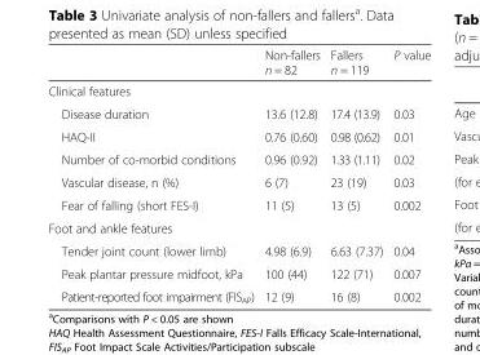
<table><thead><tr><td></td><td>Non-fallers n = 82</td><td>Fallers n = 119</td><td>P value</td></tr></thead><tbody><tr><td colspan="4">Clinical features</td></tr><tr><td>Disease duration</td><td>13.6 (12.8)</td><td>17.4 (13.9)</td><td>0.03</td></tr><tr><td>HAQ-II</td><td>0.76 (0.60)</td><td>0.98 (0.62)</td><td>0.01</td></tr><tr><td>Number of co-morbid conditions</td><td>0.96 (0.92)</td><td>1.33 (1.11)</td><td>0.02</td></tr><tr><td>Vascular disease, n (%)</td><td>6 (7)</td><td>23 (19)</td><td>0.03</td></tr><tr><td>Fear of falling (short FES-I)</td><td>11 (5)</td><td>13 (5)</td><td>0.002</td></tr><tr><td colspan="4">Foot and ankle features</td></tr><tr><td>Tender joint count (lower limb)</td><td>4.98 (6.9)</td><td>6.63 (7.37)</td><td>0.04</td></tr><tr><td>Peak plantar pressure midfoot, kPa</td><td>100 (44)</td><td>122 (71)</td><td>0.007</td></tr><tr><td>Patient-reported foot impairment (FIS<sub>AP</sub>)</td><td>12 (9)</td><td>16 (8)</td><td>0.002</td></tr></tbody></table>